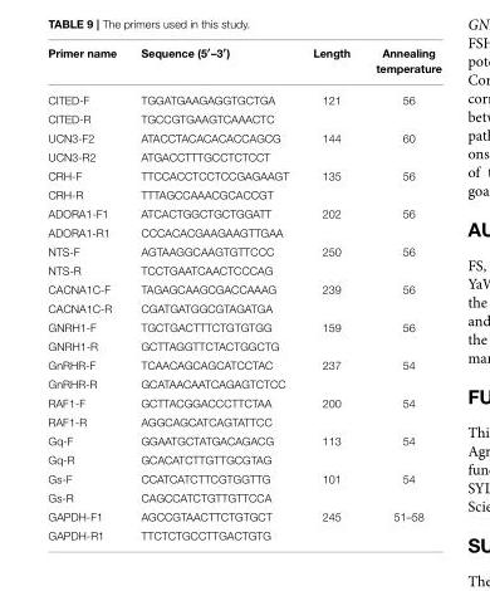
<table><thead><tr><td>Primer name</td><td>Sequence (5′–3′)</td><td>Length</td><td>Annealing temperature</td></tr></thead><tbody><tr><td>CITED-F</td><td>TGGATGAAGAGGTGCTGA</td><td>121</td><td>56</td></tr><tr><td>CITED-R</td><td>TGCCGTGAAGTCAAACTC</td><td></td><td></td></tr><tr><td>UCN3-F2</td><td>ATACCTACACACACCAGCG</td><td>144</td><td>60</td></tr><tr><td>UCN3-R2</td><td>ATGACCTTTGCCTCTCCT</td><td></td><td></td></tr><tr><td>CRH-F</td><td>TTCCACCTCCTCCGAGAAGT</td><td>135</td><td>56</td></tr><tr><td>CRH-R</td><td>TTTAGCCAAACGCACCGT</td><td></td><td></td></tr><tr><td>ADORA1-F1</td><td>ATCACTGGCTGCTGGATT</td><td>202</td><td>56</td></tr><tr><td>ADORA1-R1</td><td>CCCACACGAAGAAGTTGAA</td><td></td><td></td></tr><tr><td>NTS-F</td><td>AGTAAGGCAAGTGTTCCC</td><td>250</td><td>56</td></tr><tr><td>NTS-R</td><td>TCCTGAATCAACTCCCAG</td><td></td><td></td></tr><tr><td>CACNA1C-F</td><td>TAGAGCAAGCGACCAAAG</td><td>239</td><td>56</td></tr><tr><td>CACNA1C-R</td><td>CGATGATGGCGTAGATGA</td><td></td><td></td></tr><tr><td>GNRH1-F</td><td>TGCTGACTTTCTGTGTGG</td><td>159</td><td>56</td></tr><tr><td>GNRH1-R</td><td>GCTTAGGTTCTACTGGCTG</td><td></td><td></td></tr><tr><td>GnRHR-F</td><td>TCAACAGCAGCATCCTAC</td><td>237</td><td>54</td></tr><tr><td>GnRHR-R</td><td>GCATAACAATCAGAGTCTCC</td><td></td><td></td></tr><tr><td>RAF1-F</td><td>GCTTACGGACCCTTCTAA</td><td>200</td><td>54</td></tr><tr><td>RAF1-R</td><td>AGGCAGCATCAGTATTCC</td><td></td><td></td></tr><tr><td>Gq-F</td><td>GGAATGCTATGACAGACG</td><td>113</td><td>54</td></tr><tr><td>Gq-R</td><td>GCACATCTTGTTGCGTAG</td><td></td><td></td></tr><tr><td>Gs-F</td><td>CCATCATCTTCGTGGTTG</td><td>101</td><td>54</td></tr><tr><td>Gs-R</td><td>CAGCCATCTGTTGTTCCA</td><td></td><td></td></tr><tr><td>GAPDH-F1</td><td>AGCCGTAACTTCTGTGCT</td><td>245</td><td>51–58</td></tr><tr><td>GAPDH-R1</td><td>TTCTCTGCCTTGACTGTG</td><td></td><td></td></tr></tbody></table>